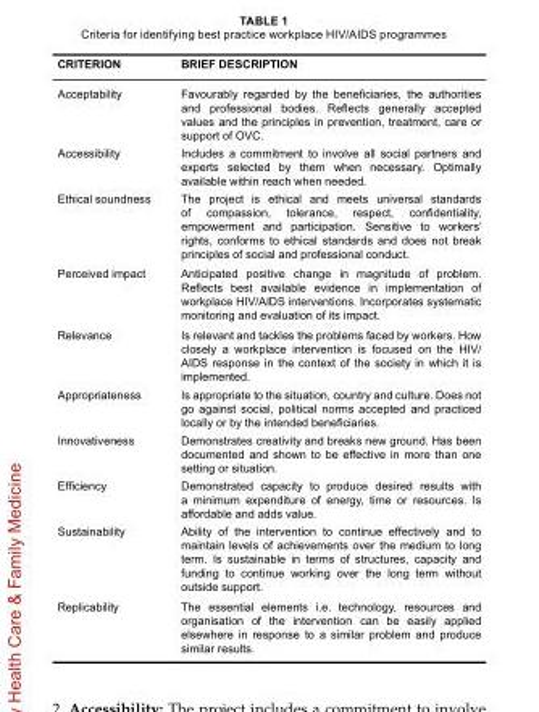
<table><thead><tr><td>CriTerion</td><td>BrIef deScrIptIon</td></tr></thead><tbody><tr><td>Acceptability</td><td>Favourably regarded by the beneficiaries, the authorities and professional bodies. Reflects generally accepted values and the principles in prevention, treatment, care or support of OVC.</td></tr><tr><td>Accessibility</td><td>Includes a commitment to involve all social partners and experts selected by them when necessary. Optimally available within reach when needed.</td></tr><tr><td>Ethical soundness</td><td>The project is ethical and meets universal standards of compassion, tolerance, respect, confidentiality, empowerment and participation. Sensitive to workers’ rights, conforms to ethical standards and does not break principles of social and professional conduct.</td></tr><tr><td>Perceived impact</td><td>Anticipated positive change in magnitude of problem. Reflects best available evidence in implementation of workplace HIV/AIDS interventions. Incorporates systematic monitoring and evaluation of its impact.</td></tr><tr><td>Relevance</td><td>Is relevant and tackles the problems faced by workers. How closely a workplace intervention is focused on the HIV/ AIDS response in the context of the society in which it is implemented.</td></tr><tr><td>Appropriateness</td><td>Is appropriate to the situation, country and culture. Does not go against social, political norms accepted and practiced locally or by the intended beneficiaries.</td></tr><tr><td>Innovativeness</td><td>Demonstrates creativity and breaks new ground. Has been documented and shown to be effective in more than one setting or situation.</td></tr><tr><td>Efficiency</td><td>Demonstrated capacity to produce desired results with a minimum expenditure of energy, time or resources. Is affordable and adds value.</td></tr><tr><td>Sustainability</td><td>Ability of the intervention to continue effectively and to maintain levels of achievements over the medium to long term. Is sustainable in terms of structures, capacity and funding to continue working over the long term without outside support.</td></tr><tr><td>Replicability</td><td>The essential elements i.e. technology, resources and organisation of the intervention can be easily applied elsewhere in response to a similar problem and produce similar results.</td></tr></tbody></table>